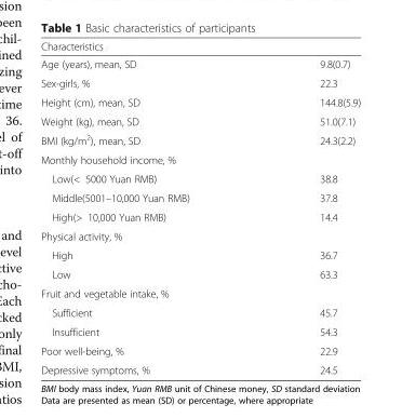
<table><thead><tr><td colspan="2">Characteristics</td></tr><tr><td>Age (years), mean, SD</td><td>9.8(0.7)</td></tr></thead><tbody><tr><td>Sex-girls, %</td><td>22.3</td></tr><tr><td>Height (cm), mean, SD</td><td>144.8(5.9)</td></tr><tr><td>Weight (kg), mean, SD</td><td>51.0(7.1)</td></tr><tr><td>BMI (kg/m<sup>2</sup>), mean, SD</td><td>24.3(2.2)</td></tr><tr><td colspan="2">Monthly household income, %</td></tr><tr><td>Low(&lt; 5000 Yuan RMB)</td><td>38.8</td></tr><tr><td>Middle(5001–10,000 Yuan RMB)</td><td>37.8</td></tr><tr><td>High(&gt; 10,000 Yuan RMB)</td><td>14.4</td></tr><tr><td colspan="2">Physical activity, %</td></tr><tr><td>High</td><td>36.7</td></tr><tr><td>Low</td><td>63.3</td></tr><tr><td colspan="2">Fruit and vegetable intake, %</td></tr><tr><td>Sufficient</td><td>45.7</td></tr><tr><td>Insufficient</td><td>54.3</td></tr><tr><td>Poor well-being, %</td><td>22.9</td></tr><tr><td>Depressive symptoms, %</td><td>24.5</td></tr></tbody></table>